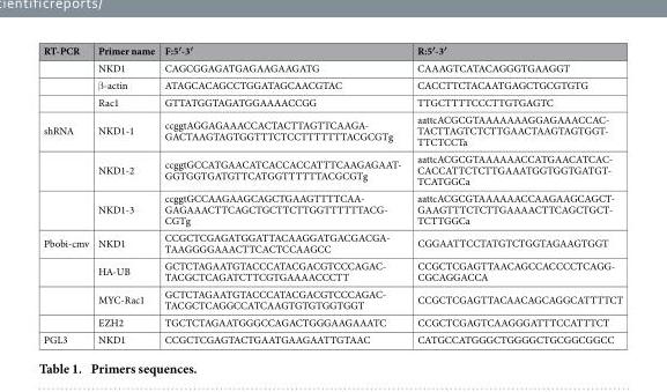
<table><thead><tr><td>RT-PCR</td><td>Primer name</td><td>F:5′-3′</td><td>R:5′-3′</td></tr></thead><tbody><tr><td></td><td>NKD1</td><td>CAGCGGAGATGAGAAGAAGATG</td><td>CAAAGTCATACAGGGTGAAGGT</td></tr><tr><td></td><td>β -actin</td><td>ATAGCACAGCCTGGATAGCAACGTAC</td><td>CACCTTCTACAATGAGCTGCGTGTG</td></tr><tr><td></td><td>Rac1</td><td>GTTATGGTAGATGGAAAACCGG</td><td>TTGCTTTTCCCTTGTGAGTC</td></tr><tr><td rowspan="3">shRNA</td><td>NKD1-1</td><td>ccggtAGGAGAAACCACTACTTAGTTCAAGA- GACTAAGTAGTGGTTTCTCCTTTTTTTACGCGTg</td><td>aattcACGCGTAAAAAAAGGAGAAACCAC- TACTTAGTCTCTTGAACTAAGTAGTGGT- TTCTCCTa</td></tr><tr><td>NKD1-2</td><td>ccggtGCCATGAACATCACCACCATTTCAAGAGAAT- GGTGGTGATGTTCATGGTTTTTTACGCGTg</td><td>aattcACGCGTAAAAAACCATGAACATCAC- CACCATTCTCTTGAAATGGTGGTGATGT- TCATGGCa</td></tr><tr><td>NKD1-3</td><td>ccggtGCCAAGAAGCAGCTGAAGTTTTCAA- GAGAAACTTCAGCTGCTTCTTGGTTTTTTACG- CGTg</td><td>aattcACGCGTAAAAAACCAAGAAGCAGCT- GAAGTTTCTCTTGAAAACTTCAGCTGCT- TCTTGGCa</td></tr><tr><td rowspan="4">Pbobi-cmv</td><td>NKD1</td><td>CCGCTCGAGATGGATTACAAGGATGACGACGA- TAAGGGGAAACTTCACTCCAAGCC</td><td>CGGAATTCCTATGTCTGGTAGAAGTGGT</td></tr><tr><td>HA-UB</td><td>GCTCTAGAATGTACCCATACGACGTCCCAGAC- TACGCTCAGATCTTCGTGAAAACCCTT</td><td>CCGCTCGAGTTAACAGCCACCCCTCAGG- CGCAGGACCA</td></tr><tr><td>MYC-Rac1</td><td>GCTCTAGAATGTACCCATACGACGTCCCAGAC- TACGCTCAGGCCATCAAGTGTGTGGTGGT</td><td>CCGCTCGAGTTACAACAGCAGGCATTTTCT</td></tr><tr><td>EZH2</td><td>TGCTCTAGAATGGGCCAGACTGGGAAGAAATC</td><td>CCGCTCGAGTCAAGGGATTTCCATTTCT</td></tr><tr><td>PGL3</td><td>NKD1</td><td>CCGCTCGAGTACTGAATGAAGAATTGTAAC</td><td>CATGCCATGGGCTGGGGCTGCGGCGGCC</td></tr></tbody></table>